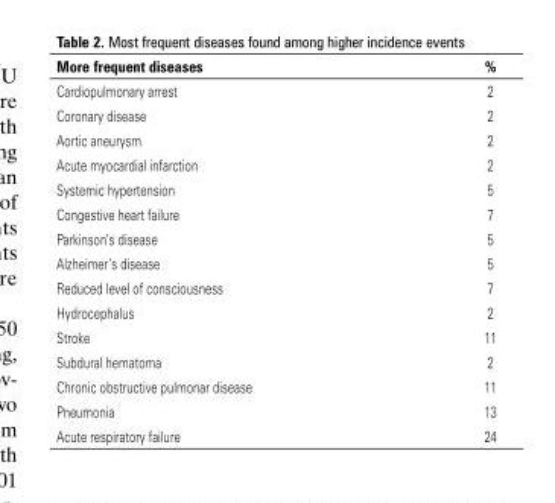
<table><thead><tr><td>More frequent diseases</td><td>%</td></tr></thead><tbody><tr><td>Cardiopulmonary arrest</td><td>2</td></tr><tr><td>Coronary disease</td><td>2</td></tr><tr><td>Aortic aneurysm</td><td>2</td></tr><tr><td>Acute myocardial infarction</td><td>2</td></tr><tr><td>Systemic hypertension</td><td>5</td></tr><tr><td>Congestive heart failure</td><td>7</td></tr><tr><td>Parkinson’s disease</td><td>5</td></tr><tr><td>Alzheimer’s disease</td><td>5</td></tr><tr><td>Reduced level of consciousness</td><td>7</td></tr><tr><td>Hydrocephalus</td><td>2</td></tr><tr><td>Stroke</td><td>11</td></tr><tr><td>Subdural hematoma</td><td>2</td></tr><tr><td>Chronic obstructive pulmonar disease</td><td>11</td></tr><tr><td>Pneumonia</td><td>13</td></tr><tr><td>Acute respiratory failure</td><td>24</td></tr></tbody></table>